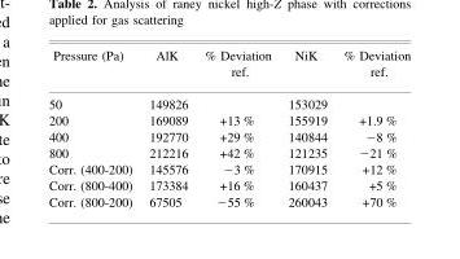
<table><thead><tr><td>Pressure (Pa)</td><td>AlK</td><td>% Deviation ref.</td><td>NiK</td><td>% Deviation ref.</td></tr></thead><tbody><tr><td>50</td><td>149826</td><td></td><td>153029</td><td></td></tr><tr><td>200</td><td>169089</td><td>+13 %</td><td>155919</td><td>+1.9 %</td></tr><tr><td>400</td><td>192770</td><td>+29 %</td><td>140844</td><td>−8 %</td></tr><tr><td>800</td><td>212216</td><td>+42 %</td><td>121235</td><td>−21 %</td></tr><tr><td>Corr. (400-200)</td><td>145576</td><td>−3 %</td><td>170915</td><td>+12 %</td></tr><tr><td>Corr. (800-400)</td><td>173384</td><td>+16 %</td><td>160437</td><td>+5 %</td></tr><tr><td>Corr. (800-200)</td><td>67505</td><td>−55 %</td><td>260043</td><td>+70 %</td></tr></tbody></table>